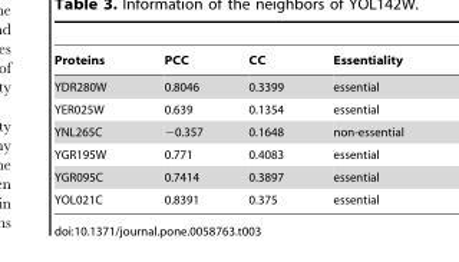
<table><thead><tr><td>Proteins</td><td>PCC</td><td>CC</td><td>Essentiality</td></tr></thead><tbody><tr><td>YDR280W</td><td>0.8046</td><td>0.3399</td><td>essential</td></tr><tr><td>YER025W</td><td>0.639</td><td>0.1354</td><td>essential</td></tr><tr><td>YNL265C</td><td>−0.357</td><td>0.1648</td><td>non-essential</td></tr><tr><td>YGR195W</td><td>0.771</td><td>0.4083</td><td>essential</td></tr><tr><td>YGR095C</td><td>0.7414</td><td>0.3897</td><td>essential</td></tr><tr><td>YOL021C</td><td>0.8391</td><td>0.375</td><td>essential</td></tr></tbody></table>